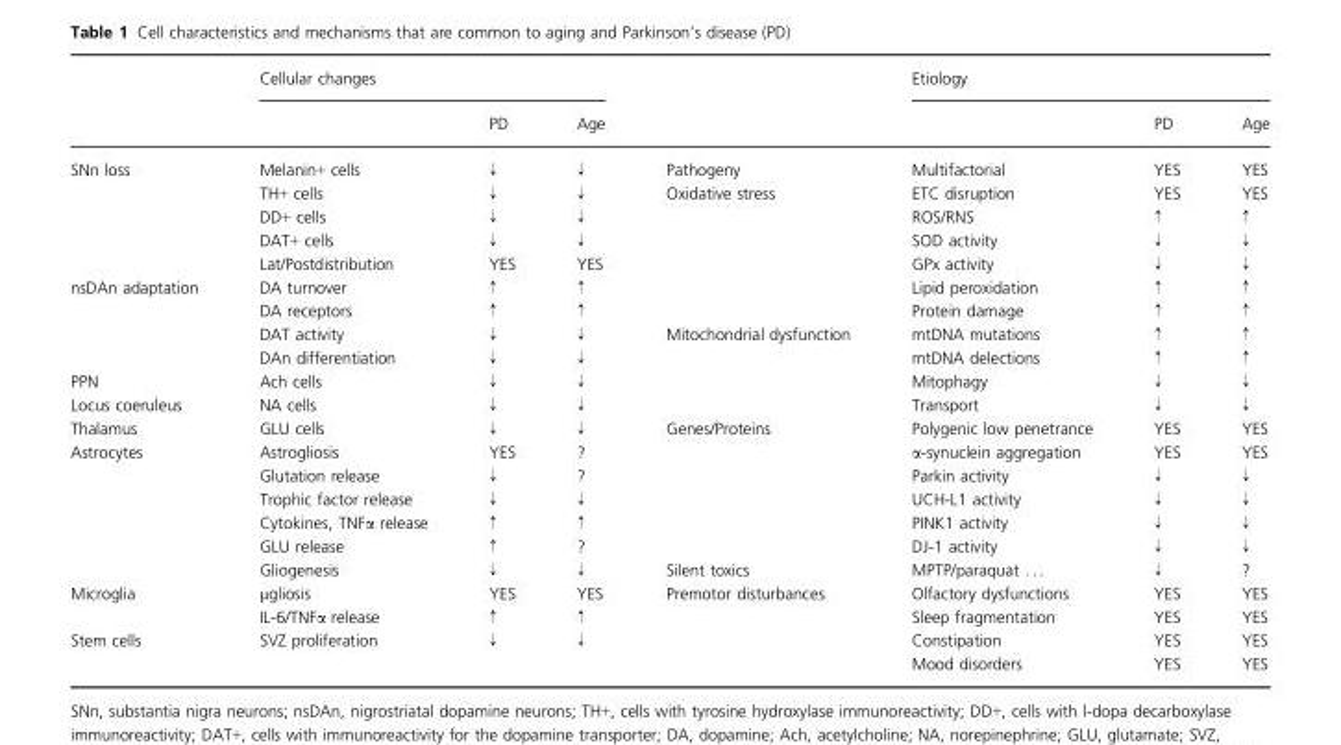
<table><thead><tr><td rowspan="2"></td><td colspan="3">Cellular changes</td><td rowspan="2"></td><td colspan="3">Etiology</td></tr><tr><td></td><td>PD</td><td>Age</td><td></td><td>PD</td><td>Age</td></tr></thead><tbody><tr><td rowspan="5">SNn loss</td><td>Melanin+ cells</td><td>↓</td><td>↓</td><td>Pathogeny</td><td>Multifactorial</td><td>YES</td><td>YES</td></tr><tr><td>TH+ cells</td><td>↓</td><td>↓</td><td rowspan="6">Oxidative stress</td><td>ETC disruption</td><td>YES</td><td>YES</td></tr><tr><td>DD+ cells</td><td>↓</td><td>↓</td><td>ROS/RNS</td><td>↑</td><td>↑</td></tr><tr><td>DAT+ cells</td><td>↓</td><td>↓</td><td>SOD activity</td><td>↓</td><td>↓</td></tr><tr><td>Lat/Postdistribution</td><td>YES</td><td>YES</td><td>GPx activity</td><td>↓</td><td>↓</td></tr><tr><td rowspan="4">nsDAn adaptation</td><td>DA turnover</td><td>↑</td><td>↑</td><td>Lipid peroxidation</td><td>↑</td><td>↑</td></tr><tr><td>DA receptors</td><td>↑</td><td>↑</td><td>Protein damage</td><td>↑</td><td>↑</td></tr><tr><td>DAT activity</td><td>↓</td><td>↓</td><td rowspan="4">Mitochondrial dysfunction</td><td>mtDNA mutations</td><td>↑</td><td>↑</td></tr><tr><td>DAn differentiation</td><td>↓</td><td>↓</td><td>mtDNA delections</td><td>↑</td><td>↑</td></tr><tr><td>PPN</td><td>Ach cells</td><td>↓</td><td>↓</td><td>Mitophagy</td><td>↓</td><td>↓</td></tr><tr><td>Locus coeruleus</td><td>NA cells</td><td>↓</td><td>↓</td><td>Transport</td><td>↓</td><td>↓</td></tr><tr><td>Thalamus</td><td>GLU cells</td><td>↓</td><td>↓</td><td rowspan="6">Genes/Proteins</td><td>Polygenic low penetrance</td><td>YES</td><td>YES</td></tr><tr><td rowspan="6">Astrocytes</td><td>Astrogliosis</td><td>YES</td><td>?</td><td>α-synuclein aggregation</td><td>YES</td><td>YES</td></tr><tr><td>Glutation release</td><td>↓</td><td>?</td><td>Parkin activity</td><td>↓</td><td>↓</td></tr><tr><td>Trophic factor release</td><td>↓</td><td>↓</td><td>UCH-L1 activity</td><td>↓</td><td>↓</td></tr><tr><td>Cytokines, TNFα release</td><td>↑</td><td>↑</td><td>PINK1 activity</td><td>↓</td><td>↓</td></tr><tr><td>GLU release</td><td>↑</td><td>?</td><td>DJ-1 activity</td><td>↓</td><td>↓</td></tr><tr><td>Gliogenesis</td><td>↓</td><td>↓</td><td>Silent toxics</td><td>MPTP/paraquat . . .</td><td>↓</td><td>?</td></tr><tr><td rowspan="2">Microglia</td><td>μgliosis</td><td>YES</td><td>YES</td><td rowspan="4">Premotor disturbances</td><td>Olfactory dysfunctions</td><td>YES</td><td>YES</td></tr><tr><td>IL-6/TNFα release</td><td>↑</td><td>↑</td><td>Sleep fragmentation</td><td>YES</td><td>YES</td></tr><tr><td rowspan="2">Stem cells</td><td rowspan="2">SVZ proliferation</td><td rowspan="2">↓</td><td rowspan="2">↓</td><td>Constipation</td><td>YES</td><td>YES</td></tr><tr><td>Mood disorders</td><td>YES</td><td>YES</td></tr></tbody></table>